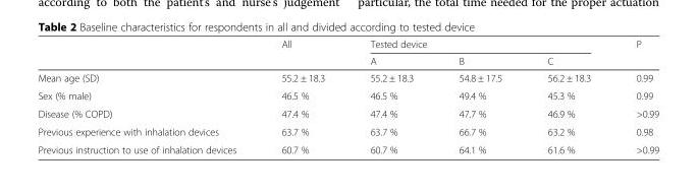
<table><thead><tr><td rowspan="2"></td><td rowspan="2">All</td><td colspan="3">Tested device</td><td rowspan="2">P</td></tr><tr><td>A</td><td>B</td><td>C</td></tr></thead><tbody><tr><td>Mean age (SD)</td><td>55.2 ± 18.3</td><td>55.2 ± 18.3</td><td>54.8 ± 17.5</td><td>56.2 ± 18.3</td><td>0.99</td></tr><tr><td>Sex (% male)</td><td>46.5 %</td><td>46.5 %</td><td>49.4 %</td><td>45.3 %</td><td>0.99</td></tr><tr><td>Disease (% COPD)</td><td>47.4 %</td><td>47.4 %</td><td>47.7 %</td><td>46.9 %</td><td>&gt;0.99</td></tr><tr><td>Previous experience with inhalation devices</td><td>63.7 %</td><td>63.7 %</td><td>66.7 %</td><td>63.2 %</td><td>0.98</td></tr><tr><td>Previous instruction to use of inhalation devices</td><td>60.7 %</td><td>60.7 %</td><td>64.1 %</td><td>61.6 %</td><td>&gt;0.99</td></tr></tbody></table>